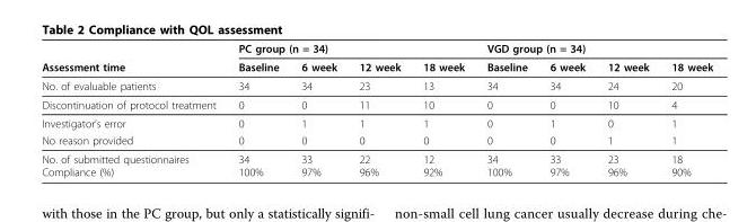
<table><thead><tr><td rowspan="2">Assessment time</td><td colspan="4">PC group (n = 34)</td><td colspan="4">VGD group (n = 34)</td></tr><tr><td>Baseline</td><td>6 week</td><td>12 week</td><td>18 week</td><td>Baseline</td><td>6 week</td><td>12 week</td><td>18 week</td></tr></thead><tbody><tr><td>No. of evaluable patients</td><td>34</td><td>34</td><td>23</td><td>13</td><td>34</td><td>34</td><td>24</td><td>20</td></tr><tr><td>Discontinuation of protocol treatment</td><td>0</td><td>0</td><td>11</td><td>10</td><td>0</td><td>0</td><td>10</td><td>4</td></tr><tr><td>Investigator’s error</td><td>0</td><td>1</td><td>1</td><td>1</td><td>0</td><td>1</td><td>0</td><td>1</td></tr><tr><td>No reason provided</td><td>0</td><td>0</td><td>0</td><td>0</td><td>0</td><td>0</td><td>1</td><td>1</td></tr><tr><td>No. of submitted questionnaires Compliance (%)</td><td>34 100%</td><td>33 97%</td><td>22 96%</td><td>12 92%</td><td>34 100%</td><td>33 97%</td><td>23 96%</td><td>18 90%</td></tr></tbody></table>